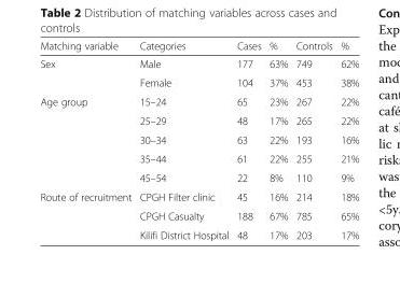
<table><thead><tr><td>Matching variable</td><td>Categories</td><td>Cases</td><td>%</td><td>Controls</td><td>%</td></tr></thead><tbody><tr><td rowspan="2">Sex</td><td>Male</td><td>177</td><td>63%</td><td>749</td><td>62%</td></tr><tr><td>Female</td><td>104</td><td>37%</td><td>453</td><td>38%</td></tr><tr><td rowspan="5">Age group</td><td>15–24</td><td>65</td><td>23%</td><td>267</td><td>22%</td></tr><tr><td>25–29</td><td>48</td><td>17%</td><td>265</td><td>22%</td></tr><tr><td>30–34</td><td>63</td><td>22%</td><td>193</td><td>16%</td></tr><tr><td>35–44</td><td>61</td><td>22%</td><td>255</td><td>21%</td></tr><tr><td>45–54</td><td>22</td><td>8%</td><td>110</td><td>9%</td></tr><tr><td rowspan="3">Route of recruitment</td><td>CPGH Filter clinic</td><td>45</td><td>16%</td><td>214</td><td>18%</td></tr><tr><td>CPGH Casualty</td><td>188</td><td>67%</td><td>785</td><td>65%</td></tr><tr><td>Kilifi District Hospital</td><td>48</td><td>17%</td><td>203</td><td>17%</td></tr></tbody></table>